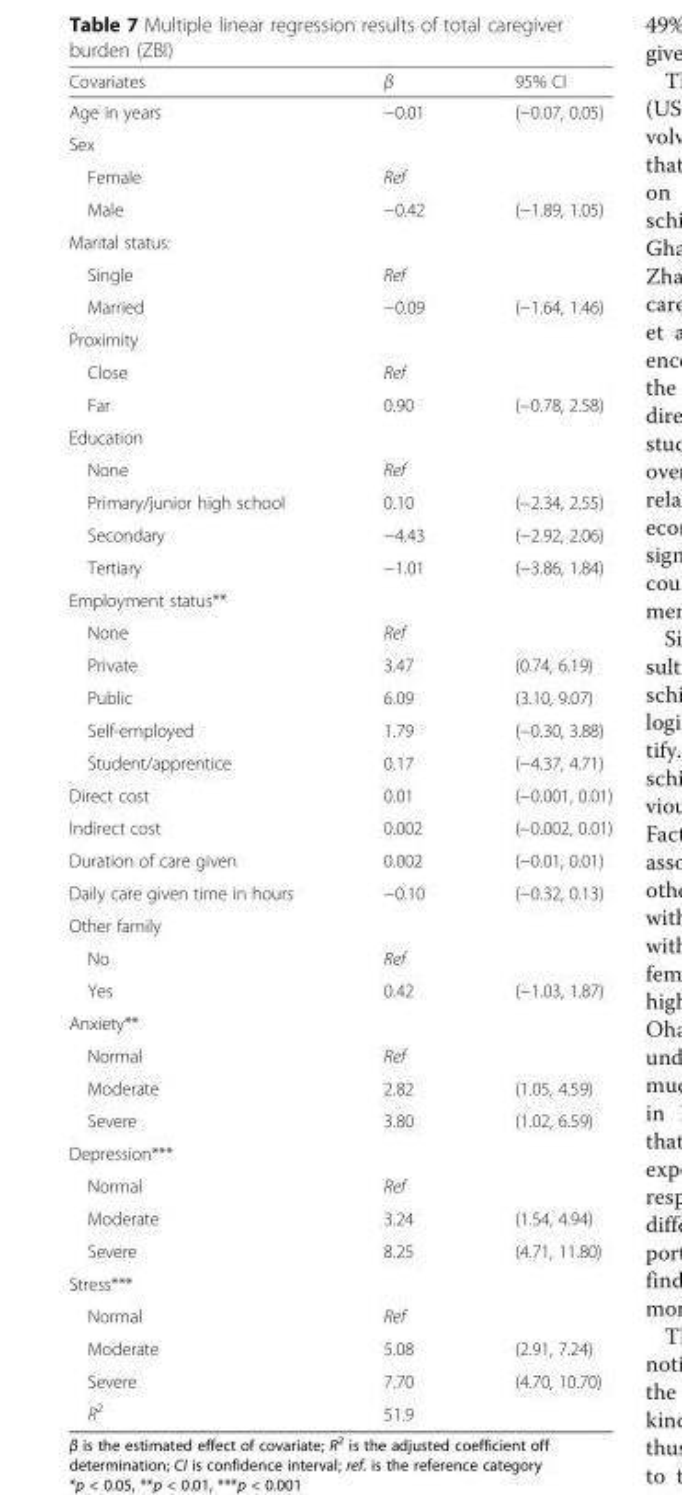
<table><thead><tr><td>Covariates</td><td>β</td><td>95% CI</td></tr></thead><tbody><tr><td>Age in years</td><td>−0.01</td><td>(−0.07, 0.05)</td></tr><tr><td colspan="3">Sex</td></tr><tr><td>Female</td><td>Ref</td><td></td></tr><tr><td>Male</td><td>−0.42</td><td>(−1.89, 1.05)</td></tr><tr><td colspan="3">Marital status:</td></tr><tr><td>Single</td><td>Ref</td><td></td></tr><tr><td>Married</td><td>−0.09</td><td>(−1.64, 1.46)</td></tr><tr><td colspan="3">Proximity</td></tr><tr><td>Close</td><td>Ref</td><td></td></tr><tr><td>Far</td><td>0.90</td><td>(−0.78, 2.58)</td></tr><tr><td colspan="3">Education</td></tr><tr><td>None</td><td>Ref</td><td></td></tr><tr><td>Primary/junior high school</td><td>0.10</td><td>(−2.34, 2.55)</td></tr><tr><td>Secondary</td><td>−4.43</td><td>(−2.92, 2.06)</td></tr><tr><td>Tertiary</td><td>−1.01</td><td>(−3.86, 1.84)</td></tr><tr><td colspan="3">Employment status**</td></tr><tr><td>None</td><td>Ref</td><td></td></tr><tr><td>Private</td><td>3.47</td><td>(0.74, 6.19)</td></tr><tr><td>Public</td><td>6.09</td><td>(3.10, 9.07)</td></tr><tr><td>Self-employed</td><td>1.79</td><td>(−0.30, 3.88)</td></tr><tr><td>Student/apprentice</td><td>0.17</td><td>(−4.37, 4.71)</td></tr><tr><td>Direct cost</td><td>0.01</td><td>(−0.001, 0.01)</td></tr><tr><td>Indirect cost</td><td>0.002</td><td>(−0.002, 0.01)</td></tr><tr><td>Duration of care given</td><td>0.002</td><td>(−0.01, 0.01)</td></tr><tr><td>Daily care given time in hours</td><td>−0.10</td><td>(−0.32, 0.13)</td></tr><tr><td colspan="3">Other family</td></tr><tr><td>No</td><td>Ref</td><td></td></tr><tr><td>Yes</td><td>0.42</td><td>(−1.03, 1.87)</td></tr><tr><td colspan="3">Anxiety**</td></tr><tr><td>Normal</td><td>Ref</td><td></td></tr><tr><td>Moderate</td><td>2.82</td><td>(1.05, 4.59)</td></tr><tr><td>Severe</td><td>3.80</td><td>(1.02, 6.59)</td></tr><tr><td colspan="3">Depression***</td></tr><tr><td>Normal</td><td>Ref</td><td></td></tr><tr><td>Moderate</td><td>3.24</td><td>(1.54, 4.94)</td></tr><tr><td>Severe</td><td>8.25</td><td>(4.71, 11.80)</td></tr><tr><td colspan="3">Stress***</td></tr><tr><td>Normal</td><td>Ref</td><td></td></tr><tr><td>Moderate</td><td>5.08</td><td>(2.91, 7.24)</td></tr><tr><td>Severe</td><td>7.70</td><td>(4.70, 10.70)</td></tr><tr><td>R<sup>2</sup></td><td>51.9</td><td></td></tr></tbody></table>